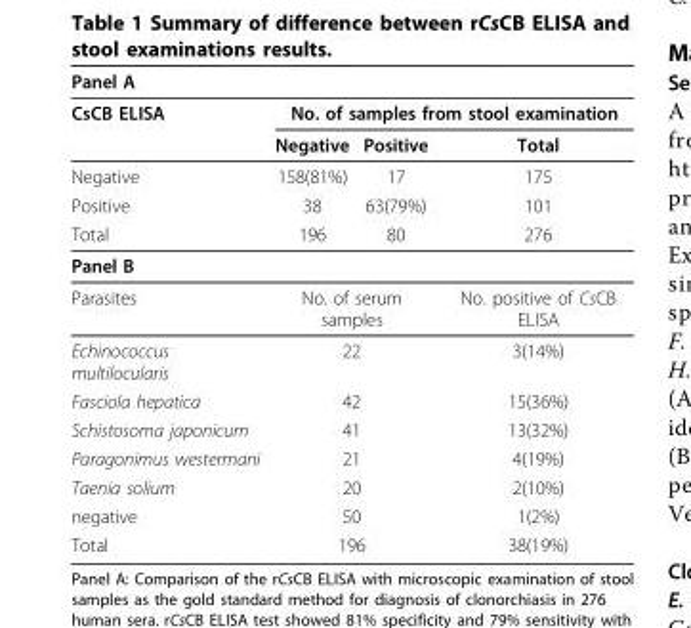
<table><thead><tr><td colspan="4">Panel A</td></tr><tr><td rowspan="2">CsCB ELISA</td><td colspan="3">No. of samples from stool examination</td></tr><tr><td>Negative</td><td>Positive</td><td>Total</td></tr></thead><tbody><tr><td>Negative</td><td>158(81%)</td><td>17</td><td>175</td></tr><tr><td>Positive</td><td>38</td><td>63(79%)</td><td>101</td></tr><tr><td>Total</td><td>196</td><td>80</td><td>276</td></tr><tr><td colspan="4">Panel B</td></tr><tr><td>Parasites</td><td colspan="2">No. of serum samples</td><td>No. positive of CsCB ELISA</td></tr><tr><td>Echinococcus multilocularis</td><td colspan="2">22</td><td>3(14%)</td></tr><tr><td>Fasciola hepatica</td><td colspan="2">42</td><td>15(36%)</td></tr><tr><td>Schistosoma japonicum</td><td colspan="2">41</td><td>13(32%)</td></tr><tr><td>Paragonimus westermani</td><td colspan="2">21</td><td>4(19%)</td></tr><tr><td>Taenia solium</td><td colspan="2">20</td><td>2(10%)</td></tr><tr><td>negative</td><td colspan="2">50</td><td>1(2%)</td></tr><tr><td>Total</td><td colspan="2">196</td><td>38(19%)</td></tr></tbody></table>